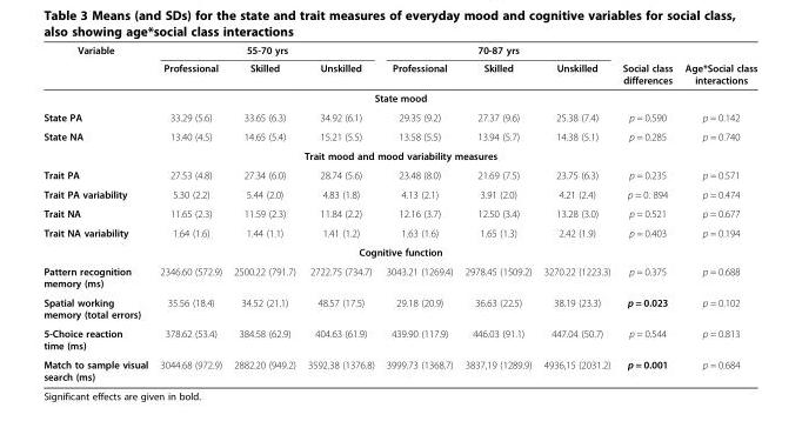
<table><thead><tr><td rowspan="2">Variable</td><td colspan="3">55-70 yrs</td><td colspan="3">70-87 yrs</td><td rowspan="2">Social class differences</td><td rowspan="2">Age*Social class interactions</td></tr><tr><td>Professional</td><td>Skilled</td><td>Unskilled</td><td>Professional</td><td>Skilled</td><td>Unskilled</td></tr></thead><tbody><tr><td colspan="9">State mood</td></tr><tr><td>State PA</td><td>33.29 (5.6)</td><td>33.65 (6.3)</td><td>34.92 (6.1)</td><td>29.35 (9.2)</td><td>27.37 (9.6)</td><td>25.38 (7.4)</td><td>p = 0.590</td><td>p = 0.142</td></tr><tr><td>State NA</td><td>13.40 (4.5)</td><td>14.65 (5.4)</td><td>15.21 (5.5)</td><td>13.58 (5.5)</td><td>13.94 (5.7)</td><td>14.38 (5.1)</td><td>p = 0.285</td><td>p = 0.740</td></tr><tr><td colspan="9">Trait mood and mood variability measures</td></tr><tr><td>Trait PA</td><td>27.53 (4.8)</td><td>27.34 (6.0)</td><td>28.74 (5.6)</td><td>23.48 (8.0)</td><td>21.69 (7.5)</td><td>23.75 (6.3)</td><td>p = 0.235</td><td>p = 0.571</td></tr><tr><td>Trait PA variability</td><td>5.30 (2.2)</td><td>5.44 (2.0)</td><td>4.83 (1.8)</td><td>4.13 (2.1)</td><td>3.91 (2.0)</td><td>4.21 (2.4)</td><td>p = 0. 894</td><td>p = 0.474</td></tr><tr><td>Trait NA</td><td>11.65 (2.3)</td><td>11.59 (2.3)</td><td>11.84 (2.2)</td><td>12.16 (3.7)</td><td>12.50 (3.4)</td><td>13.28 (3.0)</td><td>p = 0.521</td><td>p = 0.677</td></tr><tr><td>Trait NA variability</td><td>1.64 (1.6)</td><td>1.44 (1.1)</td><td>1.41 (1.2)</td><td>1.63 (1.6)</td><td>1.65 (1.3)</td><td>2.42 (1.9)</td><td>p = 0.403</td><td>p = 0.194</td></tr><tr><td colspan="9">Cognitive function</td></tr><tr><td>Pattern recognition memory (ms)</td><td>2346.60 (572.9)</td><td>2500.22 (791.7)</td><td>2722.75 (734.7)</td><td>3043.21 (1269.4)</td><td>2978.45 (1509.2)</td><td>3270.22 (1223.3)</td><td>p = 0.375</td><td>p = 0.688</td></tr><tr><td>Spatial working memory (total errors)</td><td>35.56 (18.4)</td><td>34.52 (21.1)</td><td>48.57 (17.5)</td><td>29.18 (20.9)</td><td>36.63 (22.5)</td><td>38.19 (23.3)</td><td>p = 0.023</td><td>p = 0.102</td></tr><tr><td>5-Choice reaction time (ms)</td><td>378.62 (53.4)</td><td>384.58 (62.9)</td><td>404.63 (61.9)</td><td>439.90 (117.9)</td><td>446.03 (91.1)</td><td>447.04 (50.7)</td><td>p = 0.544</td><td>p = 0.813</td></tr><tr><td>Match to sample visual search (ms)</td><td>3044.68 (972.9)</td><td>2882.20 (949.2)</td><td>3592.38 (1376.8)</td><td>3999.73 (1368.7)</td><td>3837,19 (1289.9)</td><td>4936,15 (2031.2)</td><td>p = 0.001</td><td>p = 0.684</td></tr></tbody></table>